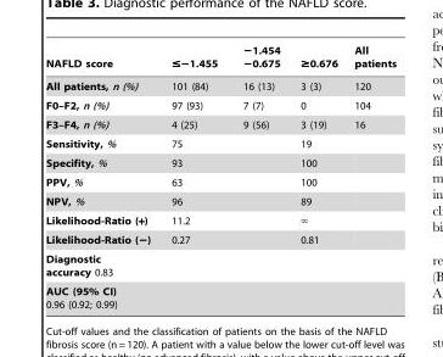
<table><thead><tr><td>NAFLD score</td><td>≤−1.455</td><td>−1.454 −0.675</td><td>≥0.676</td><td>All patients</td></tr></thead><tbody><tr><td>All patients, n (%)</td><td>101 (84)</td><td>16 (13)</td><td>3 (3)</td><td>120</td></tr><tr><td>F0–F2, n (%)</td><td>97 (93)</td><td>7 (7)</td><td>0</td><td>104</td></tr><tr><td>F3–F4, n (%)</td><td>4 (25)</td><td>9 (56)</td><td>3 (19)</td><td>16</td></tr><tr><td>Sensitivity, %</td><td>75</td><td></td><td>19</td><td></td></tr><tr><td>Specifity, %</td><td>93</td><td></td><td>100</td><td></td></tr><tr><td>PPV, %</td><td>63</td><td></td><td>100</td><td></td></tr><tr><td>NPV, %</td><td>96</td><td></td><td>89</td><td></td></tr><tr><td>Likelihood-Ratio (+)</td><td>11.2</td><td></td><td>‘</td><td></td></tr><tr><td>Likelihood-Ratio (−)</td><td>0.27</td><td></td><td>0.81</td><td></td></tr><tr><td colspan="5">Diagnostic accuracy 0.83</td></tr><tr><td colspan="5">AUC (95% CI) 0.96 (0.92; 0.99)</td></tr></tbody></table>